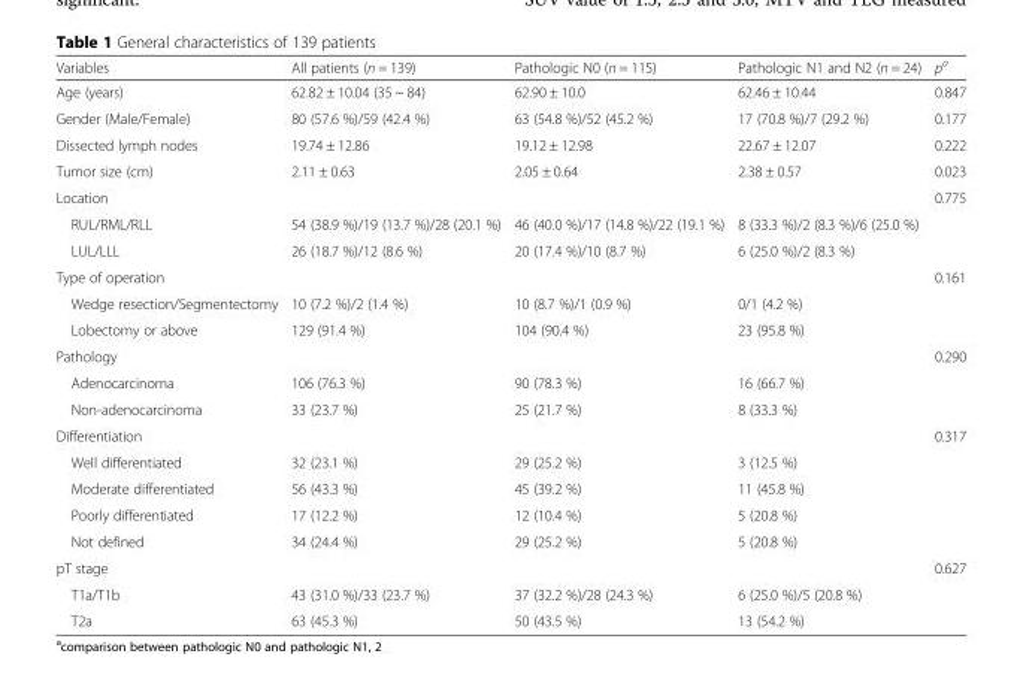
<table><thead><tr><td>Variables</td><td>All patients (n = 139)</td><td>Pathologic N0 (n = 115)</td><td>Pathologic N1 and N2 (n = 24)</td><td>p<sup>a</sup></td></tr></thead><tbody><tr><td>Age (years)</td><td>62.82 ± 10.04 (35 ~ 84)</td><td>62.90 ± 10.0</td><td>62.46 ± 10.44</td><td>0.847</td></tr><tr><td>Gender (Male/Female)</td><td>80 (57.6 %)/59 (42.4 %)</td><td>63 (54.8 %)/52 (45.2 %)</td><td>17 (70.8 %)/7 (29.2 %)</td><td>0.177</td></tr><tr><td>Dissected lymph nodes</td><td>19.74 ± 12.86</td><td>19.12 ± 12.98</td><td>22.67 ± 12.07</td><td>0.222</td></tr><tr><td>Tumor size (cm)</td><td>2.11 ± 0.63</td><td>2.05 ± 0.64</td><td>2.38 ± 0.57</td><td>0.023</td></tr><tr><td>Location</td><td></td><td></td><td></td><td>0.775</td></tr><tr><td>RUL/RML/RLL</td><td>54 (38.9 %)/19 (13.7 %)/28 (20.1 %)</td><td>46 (40.0 %)/17 (14.8 %)/22 (19.1 %)</td><td>8 (33.3 %)/2 (8.3 %)/6 (25.0 %)</td><td></td></tr><tr><td>LUL/LLL</td><td>26 (18.7 %)/12 (8.6 %)</td><td>20 (17.4 %)/10 (8.7 %)</td><td>6 (25.0 %)/2 (8.3 %)</td><td></td></tr><tr><td>Type of operation</td><td></td><td></td><td></td><td>0.161</td></tr><tr><td>Wedge resection/Segmentectomy</td><td>10 (7.2 %)/2 (1.4 %)</td><td>10 (8.7 %)/1 (0.9 %)</td><td>0/1 (4.2 %)</td><td></td></tr><tr><td>Lobectomy or above</td><td>129 (91.4 %)</td><td>104 (90.4 %)</td><td>23 (95.8 %)</td><td></td></tr><tr><td>Pathology</td><td></td><td></td><td></td><td>0.290</td></tr><tr><td>Adenocarcinoma</td><td>106 (76.3 %)</td><td>90 (78.3 %)</td><td>16 (66.7 %)</td><td></td></tr><tr><td>Non-adenocarcinoma</td><td>33 (23.7 %)</td><td>25 (21.7 %)</td><td>8 (33.3 %)</td><td></td></tr><tr><td>Differentiation</td><td></td><td></td><td></td><td>0.317</td></tr><tr><td>Well differentiated</td><td>32 (23.1 %)</td><td>29 (25.2 %)</td><td>3 (12.5 %)</td><td></td></tr><tr><td>Moderate differentiated</td><td>56 (43.3 %)</td><td>45 (39.2 %)</td><td>11 (45.8 %)</td><td></td></tr><tr><td>Poorly differentiated</td><td>17 (12.2 %)</td><td>12 (10.4 %)</td><td>5 (20.8 %)</td><td></td></tr><tr><td>Not defined</td><td>34 (24.4 %)</td><td>29 (25.2 %)</td><td>5 (20.8 %)</td><td></td></tr><tr><td>pT stage</td><td></td><td></td><td></td><td>0.627</td></tr><tr><td>T1a/T1b</td><td>43 (31.0 %)/33 (23.7 %)</td><td>37 (32.2 %)/28 (24.3 %)</td><td>6 (25.0 %)/5 (20.8 %)</td><td></td></tr><tr><td>T2a</td><td>63 (45.3 %)</td><td>50 (43.5 %)</td><td>13 (54.2 %)</td><td></td></tr></tbody></table>